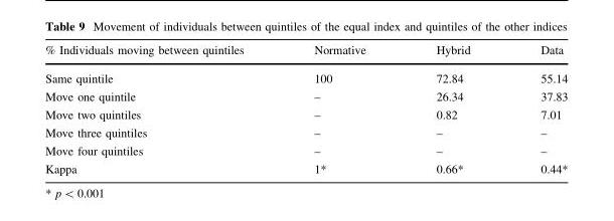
<table><thead><tr><td>% Individuals moving between quintiles</td><td>Normative</td><td>Hybrid</td><td>Data</td></tr></thead><tbody><tr><td>Same quintile</td><td>100</td><td>72.84</td><td>55.14</td></tr><tr><td>Move one quintile</td><td>–</td><td>26.34</td><td>37.83</td></tr><tr><td>Move two quintiles</td><td>–</td><td>0.82</td><td>7.01</td></tr><tr><td>Move three quintiles</td><td>–</td><td>–</td><td>–</td></tr><tr><td>Move four quintiles</td><td>–</td><td>–</td><td>–</td></tr><tr><td>Kappa</td><td>1*</td><td>0.66*</td><td>0.44*</td></tr></tbody></table>